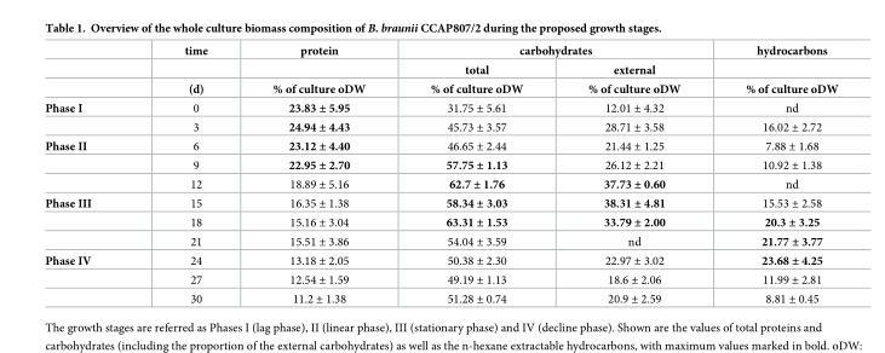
<table><thead><tr><td rowspan="3"></td><td rowspan="3">time (d)</td><td rowspan="3">protein % of culture oDW</td><td colspan="2">carbohydrates</td><td rowspan="3">hydrocarbons % of culture oDW</td></tr><tr><td rowspan="2">total % of culture oDW</td><td rowspan="2">external % of culture oDW</td></tr><tr></tr></thead><tbody><tr><td rowspan="2">Phase I</td><td>0</td><td>23.83 ± 5.95</td><td>31.75 ± 5.61</td><td>12.01 ± 4.32</td><td>nd</td></tr><tr><td>3</td><td>24.94 ± 4.43</td><td>45.73 ± 3.57</td><td>28.71 ± 3.58</td><td>16.02 ± 2.72</td></tr><tr><td rowspan="3">Phase II</td><td>6</td><td>23.12 ± 4.40</td><td>46.65 ± 2.44</td><td>21.44 ± 1.25</td><td>7.88 ± 1.68</td></tr><tr><td>9</td><td>22.95 ± 2.70</td><td>57.75 ± 1.13</td><td>26.12 ± 2.21</td><td>10.92 ± 1.38</td></tr><tr><td>12</td><td>18.89 ± 5.16</td><td>62.7 ± 1.76</td><td>37.73 ± 0.60</td><td>nd</td></tr><tr><td rowspan="3">Phase III</td><td>15</td><td>16.35 ± 1.38</td><td>58.34 ± 3.03</td><td>38.31 ± 4.81</td><td>15.53 ± 2.58</td></tr><tr><td>18</td><td>15.16 ± 3.04</td><td>63.31 ± 1.53</td><td>33.79 ± 2.00</td><td>20.3 ± 3.25</td></tr><tr><td>21</td><td>15.51 ± 3.86</td><td>54.04 ± 3.59</td><td>nd</td><td>21.77 ± 3.77</td></tr><tr><td rowspan="3">Phase IV</td><td>24</td><td>13.18 ± 2.05</td><td>50.38 ± 2.30</td><td>22.97 ± 3.02</td><td>23.68 ± 4.25</td></tr><tr><td>27</td><td>12.54 ± 1.59</td><td>49.19 ± 1.13</td><td>18.6 ± 2.06</td><td>11.99 ± 2.81</td></tr><tr><td>30</td><td>11.2 ± 1.38</td><td>51.28 ± 0.74</td><td>20.9 ± 2.59</td><td>8.81 ± 0.45</td></tr></tbody></table>